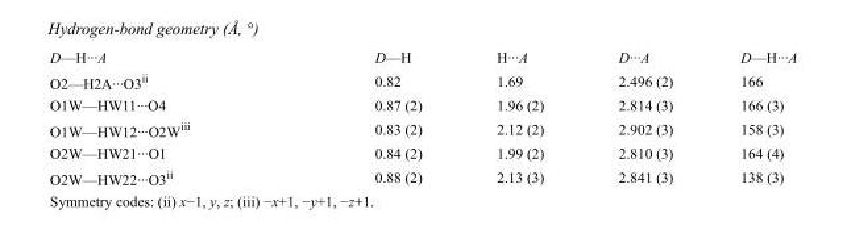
<table><tbody><tr><td>D—H···A</td><td>D—H</td><td>H···A</td><td>D···A</td><td>D—H···A</td></tr><tr><td>O2—H2A···O3<sup>ii</sup></td><td>0.82</td><td>1.69</td><td>2.496 (2)</td><td>166</td></tr><tr><td>O1W—HW11···O4</td><td>0.87 (2)</td><td>1.96 (2)</td><td>2.814 (3)</td><td>166 (3)</td></tr><tr><td>O1W—HW12···O2W<sup>iii</sup></td><td>0.83 (2)</td><td>2.12 (2)</td><td>2.902 (3)</td><td>158 (3)</td></tr><tr><td>O2W—HW21···O1</td><td>0.84 (2)</td><td>1.99 (2)</td><td>2.810 (3)</td><td>164 (4)</td></tr><tr><td>O2W—HW22···O3<sup>ii</sup></td><td>0.88 (2)</td><td>2.13 (3)</td><td>2.841 (3)</td><td>138 (3)</td></tr></tbody></table>